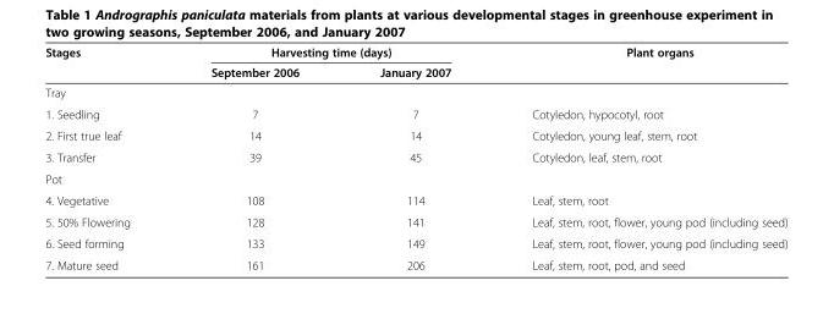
<table><thead><tr><td rowspan="2">Stages</td><td colspan="2">Harvesting time (days)</td><td rowspan="2">Plant organs</td></tr><tr><td>September 2006</td><td>January 2007</td></tr></thead><tbody><tr><td colspan="4">Tray</td></tr><tr><td>1. Seedling</td><td>7</td><td>7</td><td>Cotyledon, hypocotyl, root</td></tr><tr><td>2. First true leaf</td><td>14</td><td>14</td><td>Cotyledon, young leaf, stem, root</td></tr><tr><td>3. Transfer</td><td>39</td><td>45</td><td>Cotyledon, leaf, stem, root</td></tr><tr><td colspan="4">Pot</td></tr><tr><td>4. Vegetative</td><td>108</td><td>114</td><td>Leaf, stem, root</td></tr><tr><td>5. 50% Flowering</td><td>128</td><td>141</td><td>Leaf, stem, root, flower, young pod (including seed)</td></tr><tr><td>6. Seed forming</td><td>133</td><td>149</td><td>Leaf, stem, root, flower, young pod (including seed)</td></tr><tr><td>7. Mature seed</td><td>161</td><td>206</td><td>Leaf, stem, root, pod, and seed</td></tr></tbody></table>